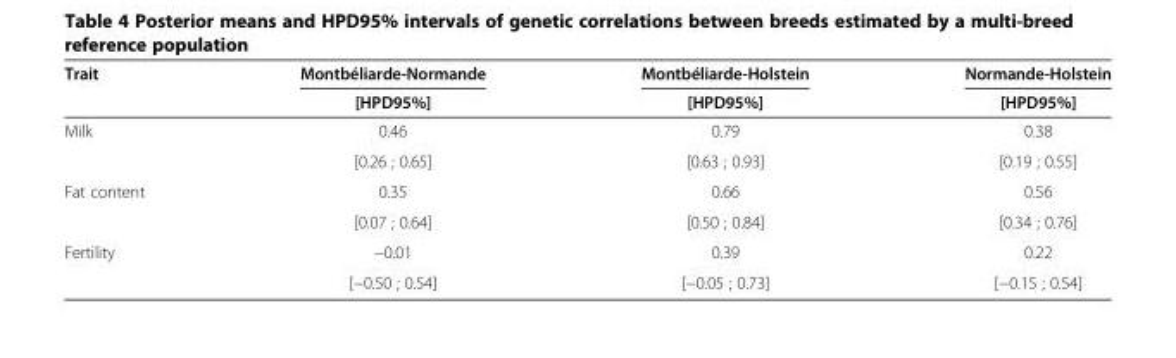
<table><thead><tr><td rowspan="2">Trait</td><td rowspan="2">Montbéliarde-Normande [HPD95%]</td><td rowspan="2">Montbéliarde-Holstein [HPD95%]</td><td rowspan="2">Normande-Holstein [HPD95%]</td></tr><tr></tr></thead><tbody><tr><td rowspan="2">Milk</td><td>0.46</td><td>0.79</td><td>0.38</td></tr><tr><td>[0.26 ; 0.65]</td><td>[0.63 ; 0.93]</td><td>[0.19 ; 0.55]</td></tr><tr><td rowspan="2">Fat content</td><td>0.35</td><td>0.66</td><td>0.56</td></tr><tr><td>[0.07 ; 0.64]</td><td>[0.50 ; 0.84]</td><td>[0.34 ; 0.76]</td></tr><tr><td rowspan="2">Fertility</td><td>−0.01</td><td>0.39</td><td>0.22</td></tr><tr><td>[−0.50 ; 0.54]</td><td>[−0.05 ; 0.73]</td><td>[−0.15 ; 0.54]</td></tr></tbody></table>